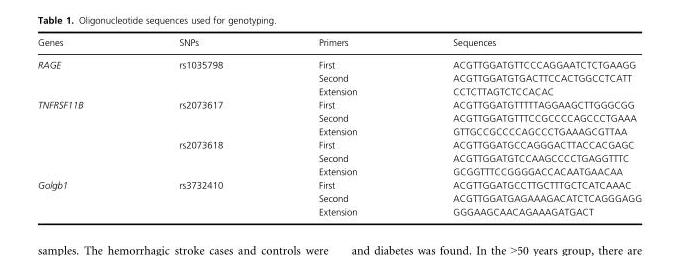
<table><thead><tr><td>Genes</td><td>SNPs</td><td>Primers</td><td>Sequences</td></tr></thead><tbody><tr><td rowspan="3">RAGE</td><td rowspan="3">rs1035798</td><td>First</td><td>ACGTTGGATGTTCCCAGGAATCTCTGAAGG</td></tr><tr><td>Second</td><td>ACGTTGGATGTGACTTCCACTGGCCTCATT</td></tr><tr><td>Extension</td><td>CCTCTTAGTCTCCACAC</td></tr><tr><td rowspan="6">TNFRSF11B</td><td rowspan="3">rs2073617</td><td>First</td><td>ACGTTGGATGTTTTTAGGAAGCTTGGGCGG</td></tr><tr><td>Second</td><td>ACGTTGGATGTTTCCGCCCCAGCCCTGAAA</td></tr><tr><td>Extension</td><td>GTTGCCGCCCCAGCCCTGAAAGCGTTAA</td></tr><tr><td rowspan="3">rs2073618</td><td>First</td><td>ACGTTGGATGCCAGGGACTTACCACGAGC</td></tr><tr><td>Second</td><td>ACGTTGGATGTCCAAGCCCCTGAGGTTTC</td></tr><tr><td>Extension</td><td>GCGGTTTCCGGGGACCACAATGAACAA</td></tr><tr><td rowspan="3">Golgb1</td><td rowspan="3">rs3732410</td><td>First</td><td>ACGTTGGATGCCTTGCTTTGCTCATCAAAC</td></tr><tr><td>Second</td><td>ACGTTGGATGAGAAAGACATCTCAGGGAGG</td></tr><tr><td>Extension</td><td>GGGAAGCAACAGAAAGATGACT</td></tr></tbody></table>